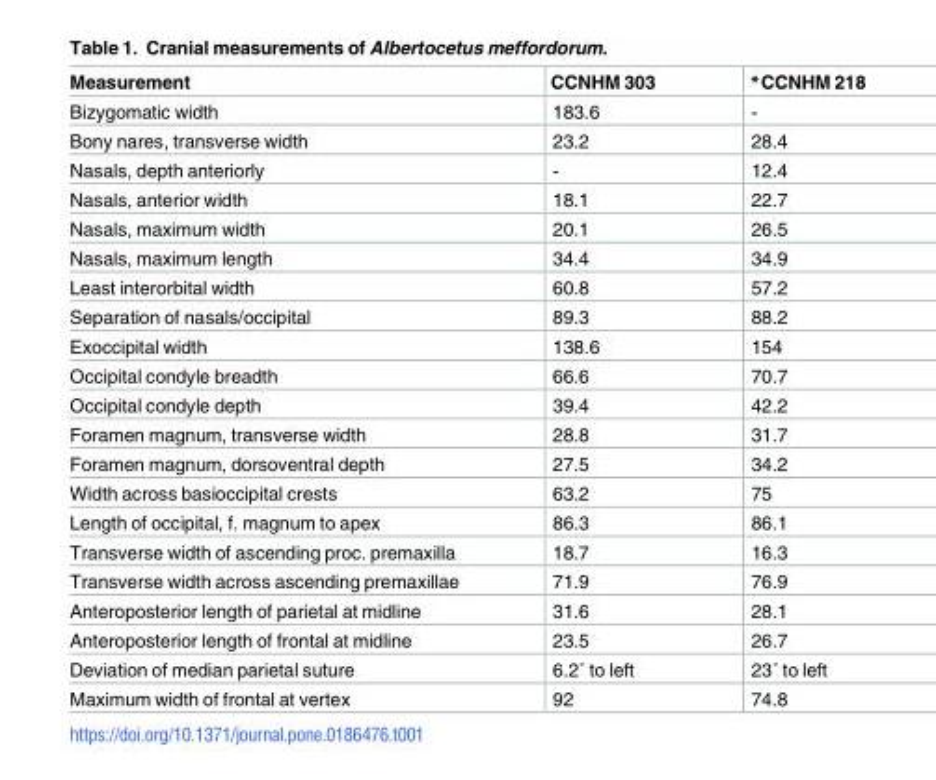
<table><thead><tr><td>Measurement</td><td>CCNHM 303</td><td>*CCNHM 218</td></tr></thead><tbody><tr><td>Bizygomatic width</td><td>183.6</td><td>-</td></tr><tr><td>Bony nares, transverse width</td><td>23.2</td><td>28.4</td></tr><tr><td>Nasals, depth anteriorly</td><td>-</td><td>12.4</td></tr><tr><td>Nasals, anterior width</td><td>18.1</td><td>22.7</td></tr><tr><td>Nasals, maximum width</td><td>20.1</td><td>26.5</td></tr><tr><td>Nasals, maximum length</td><td>34.4</td><td>34.9</td></tr><tr><td>Least interorbital width</td><td>60.8</td><td>57.2</td></tr><tr><td>Separation of nasals/occipital</td><td>89.3</td><td>88.2</td></tr><tr><td>Exoccipital width</td><td>138.6</td><td>154</td></tr><tr><td>Occipital condyle breadth</td><td>66.6</td><td>70.7</td></tr><tr><td>Occipital condyle depth</td><td>39.4</td><td>42.2</td></tr><tr><td>Foramen magnum, transverse width</td><td>28.8</td><td>31.7</td></tr><tr><td>Foramen magnum, dorsoventral depth</td><td>27.5</td><td>34.2</td></tr><tr><td>Width across basioccipital crests</td><td>63.2</td><td>75</td></tr><tr><td>Length of occipital, f. magnum to apex</td><td>86.3</td><td>86.1</td></tr><tr><td>Transverse width of ascending proc. premaxilla</td><td>18.7</td><td>16.3</td></tr><tr><td>Transverse width across ascending premaxillae</td><td>71.9</td><td>76.9</td></tr><tr><td>Anteroposterior length of parietal at midline</td><td>31.6</td><td>28.1</td></tr><tr><td>Anteroposterior length of frontal at midline</td><td>23.5</td><td>26.7</td></tr><tr><td>Deviation of median parietal suture</td><td>6.2˚ to left</td><td>23˚ to left</td></tr><tr><td>Maximum width of frontal at vertex</td><td>92</td><td>74.8</td></tr></tbody></table>